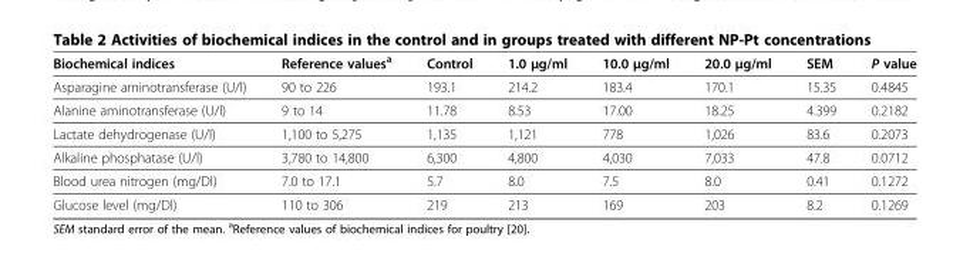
<table><thead><tr><td>Biochemical indices</td><td>Reference values<sup>a</sup></td><td>Control</td><td>1.0 μg/ml</td><td>10.0 μg/ml</td><td>20.0 μg/ml</td><td>SEM</td><td>P value</td></tr></thead><tbody><tr><td>Asparagine aminotransferase (U/l)</td><td>90 to 226</td><td>193.1</td><td>214.2</td><td>183.4</td><td>170.1</td><td>15.35</td><td>0.4845</td></tr><tr><td>Alanine aminotransferase (U/l)</td><td>9 to 14</td><td>11.78</td><td>8.53</td><td>17.00</td><td>18.25</td><td>4.399</td><td>0.2182</td></tr><tr><td>Lactate dehydrogenase (U/l)</td><td>1,100 to 5,275</td><td>1,135</td><td>1,121</td><td>778</td><td>1,026</td><td>83.6</td><td>0.2073</td></tr><tr><td>Alkaline phosphatase (U/l)</td><td>3,780 to 14,800</td><td>6,300</td><td>4,800</td><td>4,030</td><td>7,033</td><td>47.8</td><td>0.0712</td></tr><tr><td>Blood urea nitrogen (mg/Dl)</td><td>7.0 to 17.1</td><td>5.7</td><td>8.0</td><td>7.5</td><td>8.0</td><td>0.41</td><td>0.1272</td></tr><tr><td>Glucose level (mg/Dl)</td><td>110 to 306</td><td>219</td><td>213</td><td>169</td><td>203</td><td>8.2</td><td>0.1269</td></tr></tbody></table>